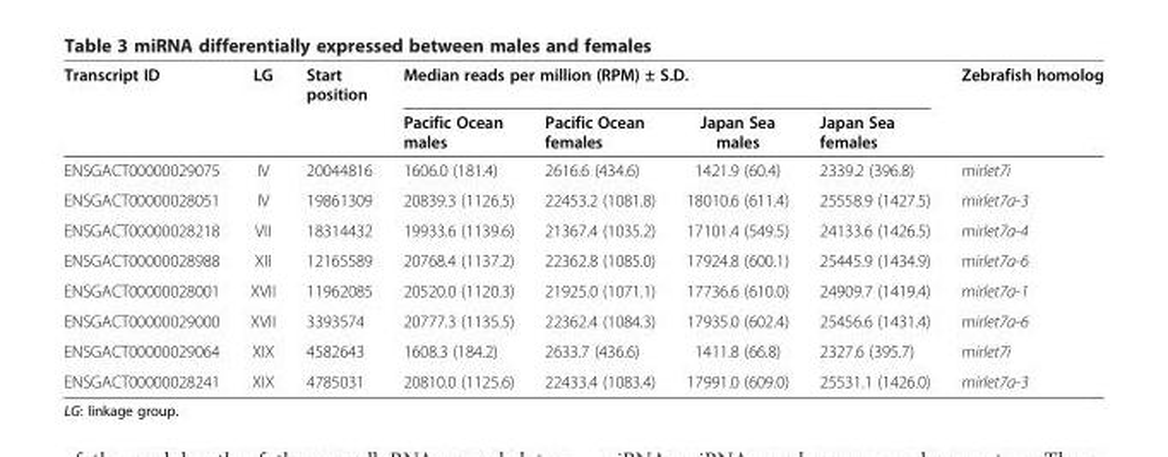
<table><thead><tr><td rowspan="2">Transcript ID</td><td rowspan="2">LG</td><td rowspan="2">Start position</td><td colspan="4">Median reads per million (RPM) ± S.D.</td><td rowspan="2">Zebrafish homolog</td></tr><tr><td>Pacific Ocean males</td><td>Pacific Ocean females</td><td>Japan Sea males</td><td>Japan Sea females</td></tr></thead><tbody><tr><td>ENSGACT00000029075</td><td>IV</td><td>20044816</td><td>1606.0 (181.4)</td><td>2616.6 (434.6)</td><td>1421.9 (60.4)</td><td>2339.2 (396.8)</td><td>mirlet7i</td></tr><tr><td>ENSGACT00000028051</td><td>IV</td><td>19861309</td><td>20839.3 (1126.5)</td><td>22453.2 (1081.8)</td><td>18010.6 (611.4)</td><td>25558.9 (1427.5)</td><td>mirlet7a-3</td></tr><tr><td>ENSGACT00000028218</td><td>VII</td><td>18314432</td><td>19933.6 (1139.6)</td><td>21367.4 (1035.2)</td><td>17101.4 (549.5)</td><td>24133.6 (1426.5)</td><td>mirlet7a-4</td></tr><tr><td>ENSGACT00000028988</td><td>XII</td><td>12165589</td><td>20768.4 (1137.2)</td><td>22362.8 (1085.0)</td><td>17924.8 (600.1)</td><td>25445.9 (1434.9)</td><td>mirlet7a-6</td></tr><tr><td>ENSGACT00000028001</td><td>XVII</td><td>11962085</td><td>20520.0 (1120.3)</td><td>21925.0 (1071.1)</td><td>17736.6 (610.0)</td><td>24909.7 (1419.4)</td><td>mirlet7a-1</td></tr><tr><td>ENSGACT00000029000</td><td>XVII</td><td>3393574</td><td>20777.3 (1135.5)</td><td>22362.4 (1084.3)</td><td>17935.0 (602.4)</td><td>25456.6 (1431.4)</td><td>mirlet7a-6</td></tr><tr><td>ENSGACT00000029064</td><td>XIX</td><td>4582643</td><td>1608.3 (184.2)</td><td>2633.7 (436.6)</td><td>1411.8 (66.8)</td><td>2327.6 (395.7)</td><td>mirlet7i</td></tr><tr><td>ENSGACT00000028241</td><td>XIX</td><td>4785031</td><td>20810.0 (1125.6)</td><td>22433.4 (1083.4)</td><td>17991.0 (609.0)</td><td>25531.1 (1426.0)</td><td>mirlet7a-3</td></tr></tbody></table>